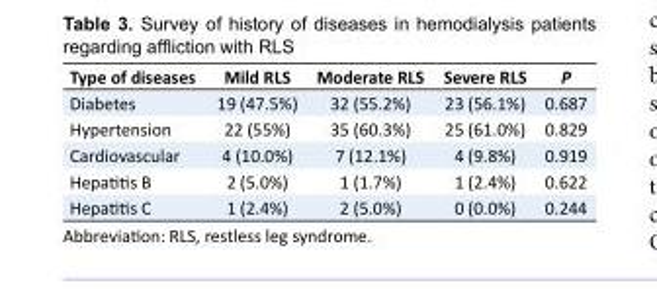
<table><tbody><tr><td>Type of diseases</td><td>Mild RLS</td><td>Moderate RLS</td><td>Severe RLS</td><td>P</td></tr><tr><td>Diabetes</td><td>19 (47.5%)</td><td>32 (55.2%)</td><td>23 (56.1%)</td><td>0.687</td></tr><tr><td>Hypertension</td><td>22 (55%)</td><td>35 (60.3%)</td><td>25 (61.0%)</td><td>0.829</td></tr><tr><td>Cardiovascular</td><td>4 (10.0%)</td><td>7 (12.1%)</td><td>4 (9.8%)</td><td>0.919</td></tr><tr><td>Hepatitis B</td><td>2 (5.0%)</td><td>1 (1.7%)</td><td>1 (2.4%)</td><td>0.622</td></tr><tr><td>Hepatitis C</td><td>1 (2.4%)</td><td>2 (5.0%)</td><td>0 (0.0%)</td><td>0.244</td></tr></tbody></table>